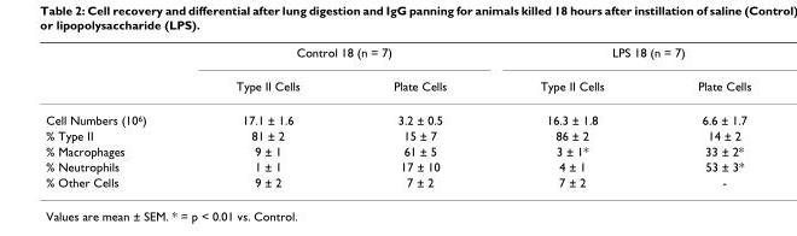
<table><thead><tr><td rowspan="2"></td><td colspan="2">Control 18 (n = 7)</td><td colspan="2">LPS 18 (n = 7)</td></tr><tr><td>Type II Cells</td><td>Plate Cells</td><td>Type II Cells</td><td>Plate Cells</td></tr></thead><tbody><tr><td>Cell Numbers (10<sup>6</sup>)</td><td>17.1 ± 1.6</td><td>3.2 ± 0.5</td><td>16.3 ± 1.8</td><td>6.6 ± 1.7</td></tr><tr><td>% Type II</td><td>81 ± 2</td><td>15 ± 7</td><td>86 ± 2</td><td>14 ± 2</td></tr><tr><td>% Macrophages</td><td>9 ± 1</td><td>61 ± 5</td><td>3 ± 1*</td><td>33 ± 2*</td></tr><tr><td>% Neutrophils</td><td>1 ± 1</td><td>17 ± 10</td><td>4 ± 1</td><td>53 ± 3*</td></tr><tr><td>% Other Cells</td><td>9 ± 2</td><td>7 ± 2</td><td>7 ± 2</td><td>-</td></tr></tbody></table>